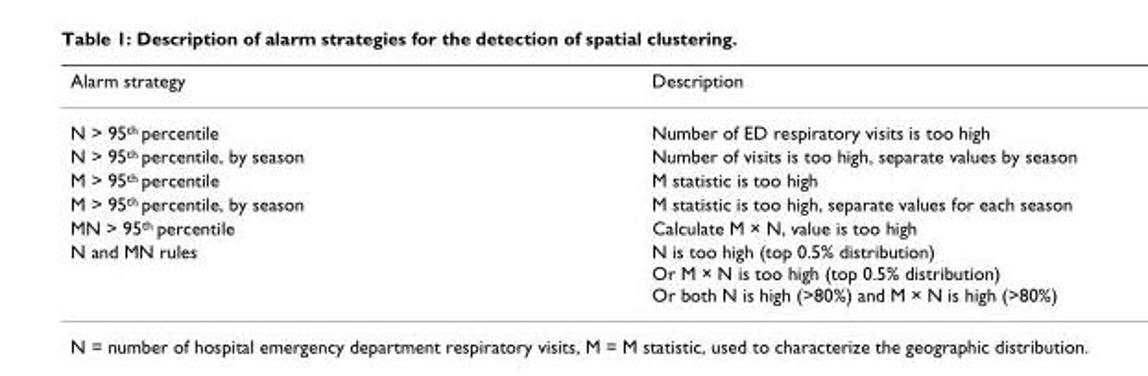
<table><thead><tr><td>Alarm strategy</td><td>Description</td></tr></thead><tbody><tr><td>N &gt; 95<sup>th</sup> percentile</td><td>Number of ED respiratory visits is too high</td></tr><tr><td>N &gt; 95<sup>th</sup> percentile, by season</td><td>Number of visits is too high, separate values by season</td></tr><tr><td>M &gt; 95<sup>th</sup> percentile</td><td>M statistic is too high</td></tr><tr><td>M &gt; 95<sup>th</sup> percentile, by season</td><td>M statistic is too high, separate values for each season</td></tr><tr><td>MN &gt; 95<sup>th</sup> percentile</td><td>Calculate M × N, value is too high</td></tr><tr><td>N and MN rules</td><td>N is too high (top 0.5% distribution) Or M × N is too high (top 0.5% distribution) Or both N is high (&gt;80%) and M × N is high (&gt;80%)</td></tr></tbody></table>